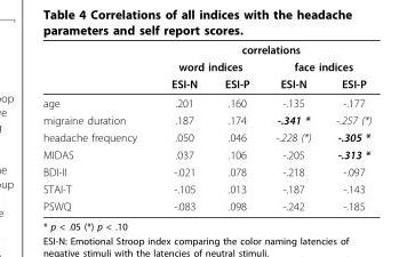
<table><thead><tr><td rowspan="3"></td><td colspan="4">correlations</td></tr><tr><td colspan="2">word indices</td><td colspan="2">face indices</td></tr><tr><td>ESI-N</td><td>ESI-P</td><td>ESI-N</td><td>ESI-P</td></tr></thead><tbody><tr><td>age</td><td>.201</td><td>.160</td><td>-.135</td><td>-.177</td></tr><tr><td>migraine duration</td><td>.187</td><td>.174</td><td>-.341 *</td><td>-.257 (*)</td></tr><tr><td>headache frequency</td><td>.050</td><td>.046</td><td>-.228 (*)</td><td>-.305 *</td></tr><tr><td>MIDAS</td><td>.037</td><td>.106</td><td>-.205</td><td>-.313 *</td></tr><tr><td>BDI-II</td><td>-.021</td><td>.078</td><td>-.218</td><td>-.097</td></tr><tr><td>STAI-T</td><td>-.105</td><td>.013</td><td>-.187</td><td>-.143</td></tr><tr><td>PSWQ</td><td>-.083</td><td>.098</td><td>-.242</td><td>-.185</td></tr></tbody></table>